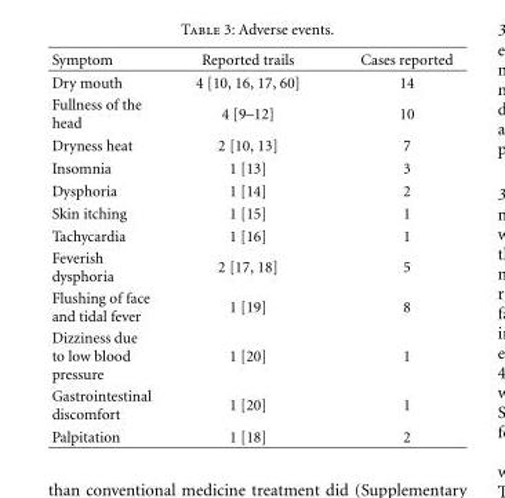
<table><thead><tr><td>Symptom</td><td>Reported trails</td><td>Cases reported</td></tr></thead><tbody><tr><td>Dry mouth</td><td>4 [10, 16, 17, 60]</td><td>14</td></tr><tr><td>Fullness of the head</td><td>4 [9–12]</td><td>10</td></tr><tr><td>Dryness heat</td><td>2 [10, 13]</td><td>7</td></tr><tr><td>Insomnia</td><td>1 [13]</td><td>3</td></tr><tr><td>Dysphoria</td><td>1 [14]</td><td>2</td></tr><tr><td>Skin itching</td><td>1 [15]</td><td>1</td></tr><tr><td>Tachycardia</td><td>1 [16]</td><td>1</td></tr><tr><td>Feverish dysphoria</td><td>2 [17, 18]</td><td>5</td></tr><tr><td>Flushing of face and tidal fever</td><td>1 [19]</td><td>8</td></tr><tr><td>Dizziness due to low blood pressure</td><td>1 [20]</td><td>1</td></tr><tr><td>Gastrointestinal discomfort</td><td>1 [20]</td><td>1</td></tr><tr><td>Palpitation</td><td>1 [18]</td><td>2</td></tr></tbody></table>